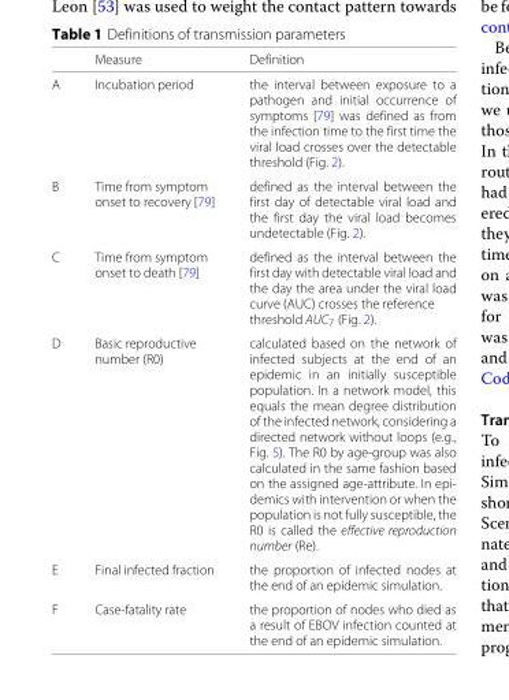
<table><thead><tr><td></td><td>Measure</td><td>Definition</td></tr></thead><tbody><tr><td>A</td><td>Incubation period</td><td>the interval between exposure to a pathogen and initial occurrence of symptoms [79] was defined as from the infection time to the first time the viral load crosses over the detectable threshold (Fig. 2).</td></tr><tr><td>B</td><td>Time from symptom onset to recovery [79]</td><td>defined as the interval between the first day of detectable viral load and the first day the viral load becomes undetectable (Fig. 2).</td></tr><tr><td>C</td><td>Time from symptom onset to death [79]</td><td>defined as the interval between the first day with detectable viral load and the day the area under the viral load curve (AUC) crosses the reference threshold AUC<sub>7</sub> (Fig. 2).</td></tr><tr><td>D</td><td>Basic reproductive number (R0)</td><td>calculated based on the network of infected subjects at the end of an epidemic in an initially susceptible population. In a network model, this equals the mean degree distribution of the infected network, considering a directed network without loops (e.g., Fig. 5). The R0 by age-group was also calculated in the same fashion based on the assigned age-attribute. In epi- demics with intervention or when the population is not fully susceptible, the R0 is called the effective reproduction number (Re).</td></tr><tr><td>E</td><td>Final infected fraction</td><td>the proportion of infected nodes at the end of an epidemic simulation.</td></tr><tr><td>F</td><td>Case-fatality rate</td><td>the proportion of nodes who died as a result of EBOV infection counted at the end of an epidemic simulation.</td></tr></tbody></table>